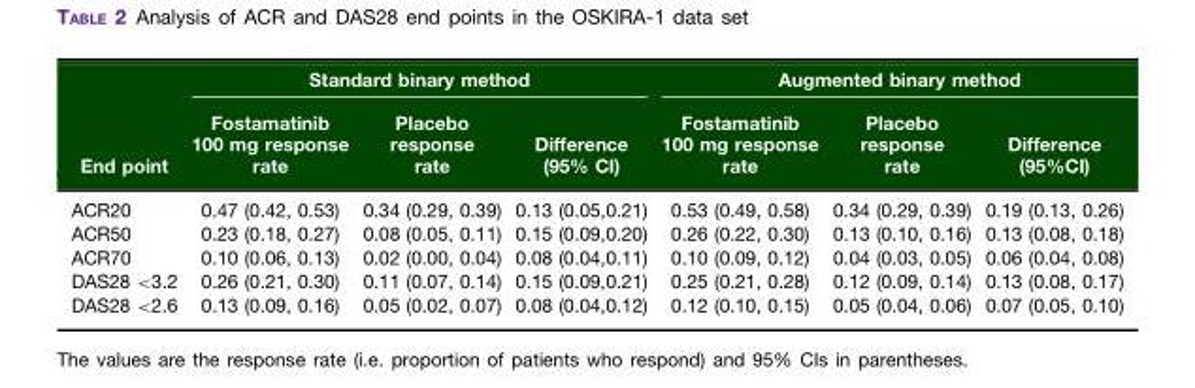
<table><thead><tr><td rowspan="2">End point</td><td colspan="3">Standard binary method</td><td colspan="3">Augmented binary method</td></tr><tr><td>Fostamatinib 100 mg response rate</td><td>Placebo response rate</td><td>Difference (95% CI)</td><td>Fostamatinib 100 mg response rate</td><td>Placebo response rate</td><td>Difference (95%CI)</td></tr></thead><tbody><tr><td>ACR20</td><td>0.47 (0.42, 0.53)</td><td>0.34 (0.29, 0.39)</td><td>0.13 (0.05,0.21)</td><td>0.53 (0.49, 0.58)</td><td>0.34 (0.29, 0.39)</td><td>0.19 (0.13, 0.26)</td></tr><tr><td>ACR50</td><td>0.23 (0.18, 0.27)</td><td>0.08 (0.05, 0.11)</td><td>0.15 (0.09,0.20)</td><td>0.26 (0.22, 0.30)</td><td>0.13 (0.10, 0.16)</td><td>0.13 (0.08, 0.18)</td></tr><tr><td>ACR70</td><td>0.10 (0.06, 0.13)</td><td>0.02 (0.00, 0.04)</td><td>0.08 (0.04,0.11)</td><td>0.10 (0.09, 0.12)</td><td>0.04 (0.03, 0.05)</td><td>0.06 (0.04, 0.08)</td></tr><tr><td>DAS28 &lt;3.2</td><td>0.26 (0.21, 0.30)</td><td>0.11 (0.07, 0.14)</td><td>0.15 (0.09,0.21)</td><td>0.25 (0.21, 0.28)</td><td>0.12 (0.09, 0.14)</td><td>0.13 (0.08, 0.17)</td></tr><tr><td>DAS28 &lt;2.6</td><td>0.13 (0.09, 0.16)</td><td>0.05 (0.02, 0.07)</td><td>0.08 (0.04,0.12)</td><td>0.12 (0.10, 0.15)</td><td>0.05 (0.04, 0.06)</td><td>0.07 (0.05, 0.10)</td></tr></tbody></table>